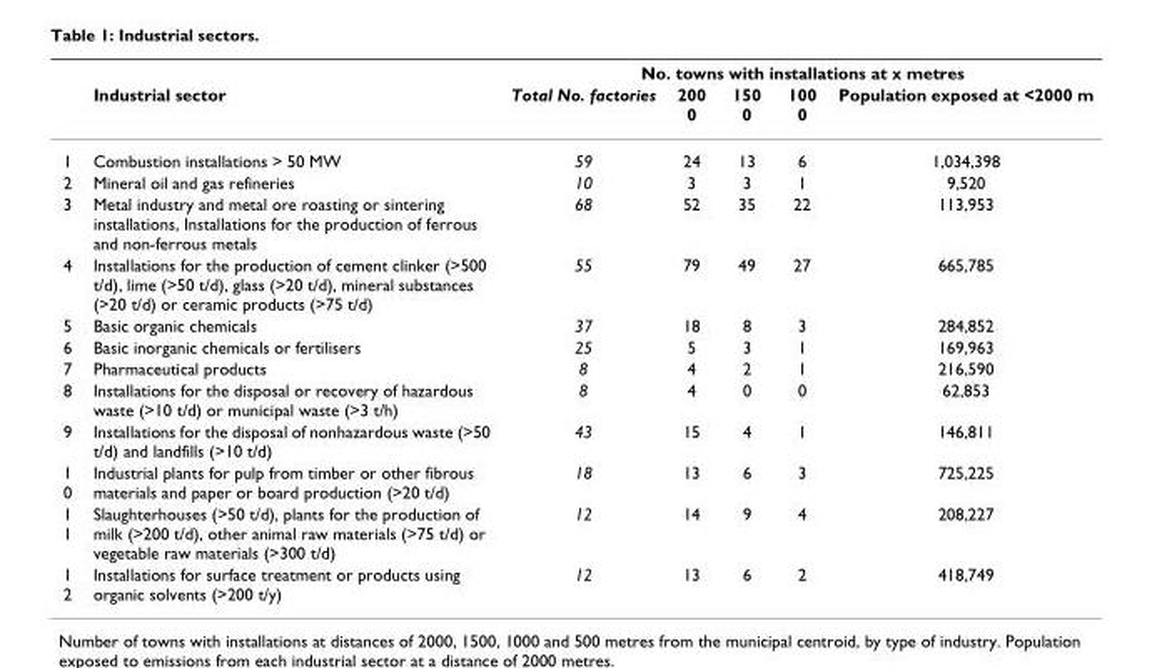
<table><thead><tr><td rowspan="2"></td><td rowspan="2">Industrial sector</td><td colspan="5">No. towns with installations at x metres</td></tr><tr><td>Total No. factories</td><td>200 0</td><td>150 0</td><td>100 0</td><td>Population exposed at &lt;2000 m</td></tr></thead><tbody><tr><td>1</td><td>Combustion installations &gt; 50 MW</td><td>59</td><td>24</td><td>13</td><td>6</td><td>1,034,398</td></tr><tr><td>2</td><td>Mineral oil and gas refineries</td><td>10</td><td>3</td><td>3</td><td>1</td><td>9,520</td></tr><tr><td>3</td><td>Metal industry and metal ore roasting or sintering installations, Installations for the production of ferrous and non-ferrous metals</td><td>68</td><td>52</td><td>35</td><td>22</td><td>113,953</td></tr><tr><td>4</td><td>Installations for the production of cement clinker (&gt;500 t/d), lime (&gt;50 t/d), glass (&gt;20 t/d), mineral substances (&gt;20 t/d) or ceramic products (&gt;75 t/d)</td><td>55</td><td>79</td><td>49</td><td>27</td><td>665,785</td></tr><tr><td>5</td><td>Basic organic chemicals</td><td>37</td><td>18</td><td>8</td><td>3</td><td>284,852</td></tr><tr><td>6</td><td>Basic inorganic chemicals or fertilisers</td><td>25</td><td>5</td><td>3</td><td>1</td><td>169,963</td></tr><tr><td>7</td><td>Pharmaceutical products</td><td>8</td><td>4</td><td>2</td><td>1</td><td>216,590</td></tr><tr><td>8</td><td>Installations for the disposal or recovery of hazardous waste (&gt;10 t/d) or municipal waste (&gt;3 t/h)</td><td>8</td><td>4</td><td>0</td><td>0</td><td>62,853</td></tr><tr><td>9</td><td>Installations for the disposal of nonhazardous waste (&gt;50 t/d) and landfills (&gt;10 t/d)</td><td>43</td><td>15</td><td>4</td><td>1</td><td>146,811</td></tr><tr><td>1 0</td><td>Industrial plants for pulp from timber or other fibrous materials and paper or board production (&gt;20 t/d)</td><td>18</td><td>13</td><td>6</td><td>3</td><td>725,225</td></tr><tr><td>1 1</td><td>Slaughterhouses (&gt;50 t/d), plants for the production of milk (&gt;200 t/d), other animal raw materials (&gt;75 t/d) or vegetable raw materials (&gt;300 t/d)</td><td>12</td><td>14</td><td>9</td><td>4</td><td>208,227</td></tr><tr><td>1 2</td><td>Installations for surface treatment or products using organic solvents (&gt;200 t/y)</td><td>12</td><td>13</td><td>6</td><td>2</td><td>418,749</td></tr></tbody></table>